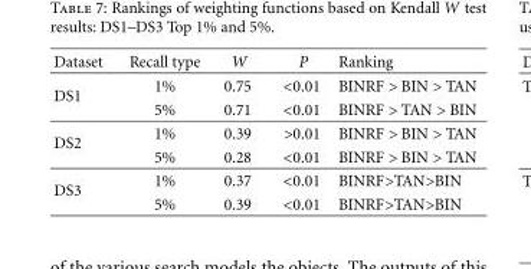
<table><thead><tr><td>Dataset</td><td>Recall type</td><td>W</td><td>P</td><td>Ranking</td></tr></thead><tbody><tr><td rowspan="2">DS1</td><td>1%</td><td>0.75</td><td>&lt;0.01</td><td>BINRF &gt; BIN &gt; TAN</td></tr><tr><td>5%</td><td>0.71</td><td>&lt;0.01</td><td>BINRF &gt; TAN &gt; BIN</td></tr><tr><td rowspan="2">DS2</td><td>1%</td><td>0.39</td><td>&gt;0.01</td><td>BINRF &gt; BIN &gt; TAN</td></tr><tr><td>5%</td><td>0.28</td><td>&lt;0.01</td><td>BINRF &gt; BIN &gt; TAN</td></tr><tr><td rowspan="2">DS3</td><td>1%</td><td>0.37</td><td>&lt;0.01</td><td>BINRF&gt;TAN&gt;BIN</td></tr><tr><td>5%</td><td>0.39</td><td>&lt;0.01</td><td>BINRF&gt;TAN&gt;BIN</td></tr></tbody></table>